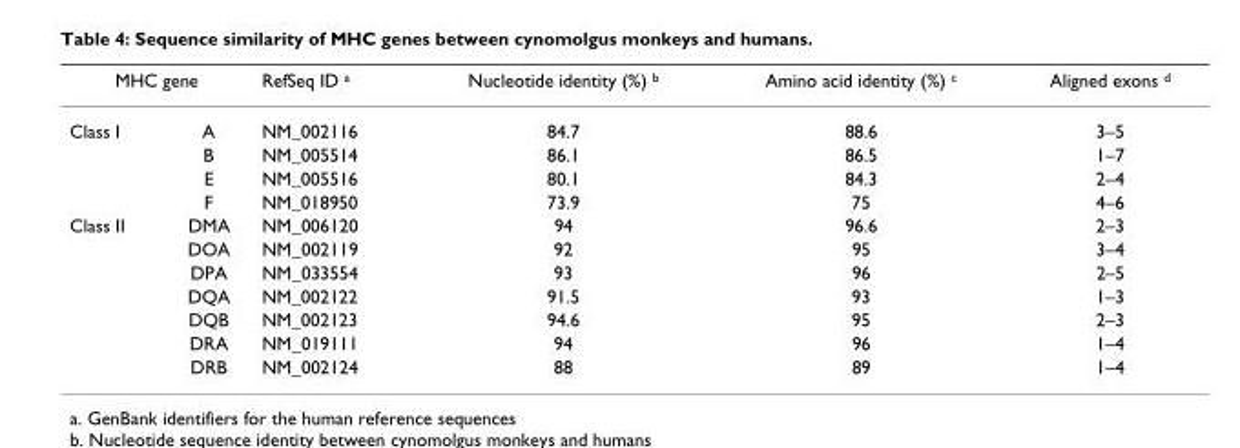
<table><thead><tr><td colspan="2">MHC gene</td><td rowspan="2">RefSeq ID a NM_002116</td><td rowspan="2">Nucleotide identity (%) b 84.7</td><td rowspan="2">Amino acid identity (%) c 88.6</td><td rowspan="2">Aligned exons d 3–5</td></tr><tr><td>Class I</td><td>A</td></tr></thead><tbody><tr><td></td><td>B</td><td>NM_005514</td><td>86.1</td><td>86.5</td><td>1–7</td></tr><tr><td></td><td>E</td><td>NM_005516</td><td>80.1</td><td>84.3</td><td>2–4</td></tr><tr><td></td><td>F</td><td>NM_018950</td><td>73.9</td><td>75</td><td>4–6</td></tr><tr><td rowspan="7">Class II</td><td>DMA</td><td>NM_006120</td><td>94</td><td>96.6</td><td>2–3</td></tr><tr><td>DOA</td><td>NM_002119</td><td>92</td><td>95</td><td>3–4</td></tr><tr><td>DPA</td><td>NM_033554</td><td>93</td><td>96</td><td>2–5</td></tr><tr><td>DQA</td><td>NM_002122</td><td>91.5</td><td>93</td><td>1–3</td></tr><tr><td>DQB</td><td>NM_002123</td><td>94.6</td><td>95</td><td>2–3</td></tr><tr><td>DRA</td><td>NM_019111</td><td>94</td><td>96</td><td>1–4</td></tr><tr><td>DRB</td><td>NM_002124</td><td>88</td><td>89</td><td>1–4</td></tr></tbody></table>